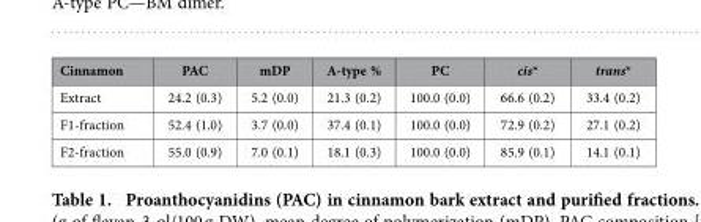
<table><thead><tr><td>Cinnamon</td><td>PAC</td><td>mDP</td><td>A-type %</td><td>PC</td><td>cis*</td><td>trans*</td></tr></thead><tbody><tr><td>Extract</td><td>24.2 (0.3)</td><td>5.2 (0.0)</td><td>21.3 (0.2)</td><td>100.0 (0.0)</td><td>66.6 (0.2)</td><td>33.4 (0.2)</td></tr><tr><td>F1-fraction</td><td>52.4 (1.0)</td><td>3.7 (0.0)</td><td>37.4 (0.1)</td><td>100.0 (0.0)</td><td>72.9 (0.2)</td><td>27.1 (0.2)</td></tr><tr><td>F2-fraction</td><td>55.0 (0.9)</td><td>7.0 (0.1)</td><td>18.1 (0.3)</td><td>100.0 (0.0)</td><td>85.9 (0.1)</td><td>14.1 (0.1)</td></tr></tbody></table>